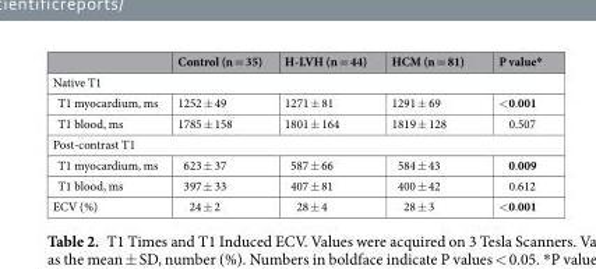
<table><thead><tr><td></td><td>Control (n = 35)</td><td>H-LVH (n = 44)</td><td>HCM (n = 81)</td><td>P value*</td></tr></thead><tbody><tr><td colspan="5">Native T1</td></tr><tr><td>T1 myocardium, ms</td><td>1252 ± 49</td><td>1271 ± 81</td><td>1291 ± 69</td><td>&lt;0.001</td></tr><tr><td>T1 blood, ms</td><td>1785 ± 158</td><td>1801 ± 164</td><td>1819 ± 128</td><td>0.507</td></tr><tr><td colspan="5">Post-contrast T1</td></tr><tr><td>T1 myocardium, ms</td><td>623 ± 37</td><td>587 ± 66</td><td>584 ± 43</td><td>0.009</td></tr><tr><td>T1 blood, ms</td><td>397 ± 33</td><td>407 ± 81</td><td>400 ± 42</td><td>0.612</td></tr><tr><td>ECV (%)</td><td>24 ± 2</td><td>28 ± 4</td><td>28 ± 3</td><td>&lt;0.001</td></tr></tbody></table>